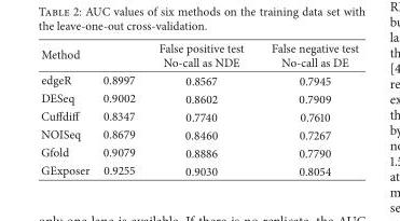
<table><thead><tr><td>Method</td><td></td><td>False positive test No-call as NDE</td><td>False negative test No-call as DE</td></tr></thead><tbody><tr><td>edgeR</td><td>0.8997</td><td>0.8567</td><td>0.7945</td></tr><tr><td>DESeq</td><td>0.9002</td><td>0.8602</td><td>0.7909</td></tr><tr><td>Cuffdiff</td><td>0.8347</td><td>0.7740</td><td>0.7610</td></tr><tr><td>NOISeq</td><td>0.8679</td><td>0.8460</td><td>0.7267</td></tr><tr><td>Gfold</td><td>0.9079</td><td>0.8886</td><td>0.7790</td></tr><tr><td>GExposer</td><td>0.9255</td><td>0.9030</td><td>0.8054</td></tr></tbody></table>